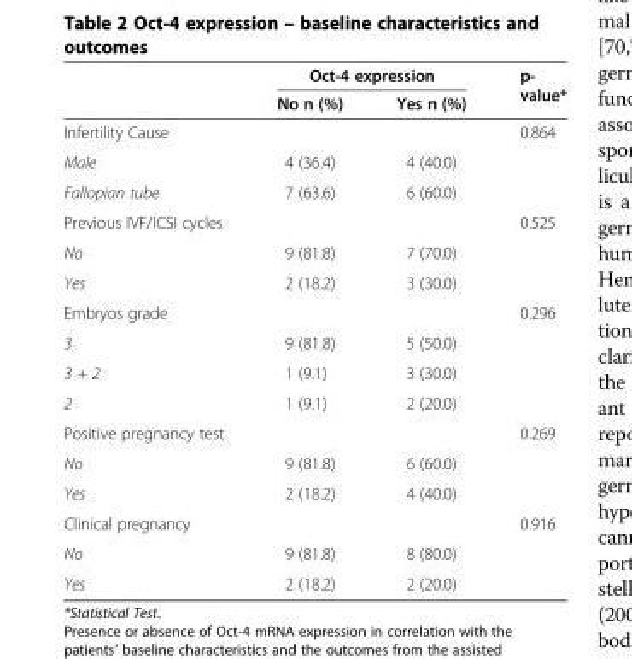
<table><thead><tr><td rowspan="2"></td><td colspan="2">Οct-4 expression</td><td rowspan="2">p- value*</td></tr><tr><td>No n (%)</td><td>Yes n (%)</td></tr></thead><tbody><tr><td>Infertility Cause</td><td></td><td></td><td>0.864</td></tr><tr><td>Male</td><td>4 (36.4)</td><td>4 (40.0)</td><td></td></tr><tr><td>Fallopian tube</td><td>7 (63.6)</td><td>6 (60.0)</td><td></td></tr><tr><td>Previous IVF/ICSI cycles</td><td></td><td></td><td>0.525</td></tr><tr><td>No</td><td>9 (81.8)</td><td>7 (70.0)</td><td></td></tr><tr><td>Yes</td><td>2 (18.2)</td><td>3 (30.0)</td><td></td></tr><tr><td>Embryos grade</td><td></td><td></td><td>0.296</td></tr><tr><td>3</td><td>9 (81.8)</td><td>5 (50.0)</td><td></td></tr><tr><td>3 + 2</td><td>1 (9.1)</td><td>3 (30.0)</td><td></td></tr><tr><td>2</td><td>1 (9.1)</td><td>2 (20.0)</td><td></td></tr><tr><td>Positive pregnancy test</td><td></td><td></td><td>0.269</td></tr><tr><td>No</td><td>9 (81.8)</td><td>6 (60.0)</td><td></td></tr><tr><td>Yes</td><td>2 (18.2)</td><td>4 (40.0)</td><td></td></tr><tr><td>Clinical pregnancy</td><td></td><td></td><td>0.916</td></tr><tr><td>No</td><td>9 (81.8)</td><td>8 (80.0)</td><td></td></tr><tr><td>Yes</td><td>2 (18.2)</td><td>2 (20.0)</td><td></td></tr></tbody></table>